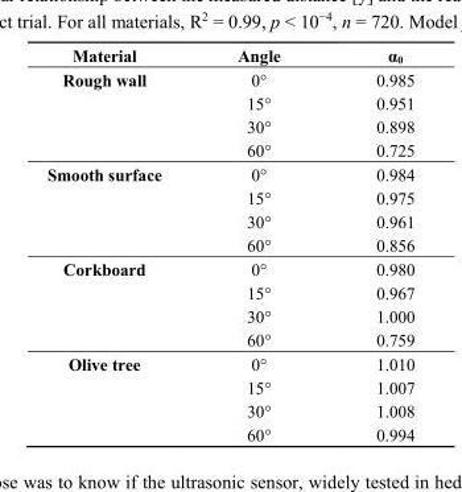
<table><thead><tr><td>Material</td><td>Angle</td><td>α<sub>0</sub></td></tr></thead><tbody><tr><td rowspan="4">Rough wall</td><td>0°</td><td>0.985</td></tr><tr><td>15°</td><td>0.951</td></tr><tr><td>30°</td><td>0.898</td></tr><tr><td>60°</td><td>0.725</td></tr><tr><td rowspan="4">Smooth surface</td><td>0°</td><td>0.984</td></tr><tr><td>15°</td><td>0.975</td></tr><tr><td>30°</td><td>0.961</td></tr><tr><td>60°</td><td>0.856</td></tr><tr><td rowspan="4">Corkboard</td><td>0°</td><td>0.980</td></tr><tr><td>15°</td><td>0.967</td></tr><tr><td>30°</td><td>1.000</td></tr><tr><td>60°</td><td>0.759</td></tr><tr><td rowspan="4">Olive tree</td><td>0°</td><td>1.010</td></tr><tr><td>15°</td><td>1.007</td></tr><tr><td>30°</td><td>1.008</td></tr><tr><td>60°</td><td>0.994</td></tr></tbody></table>